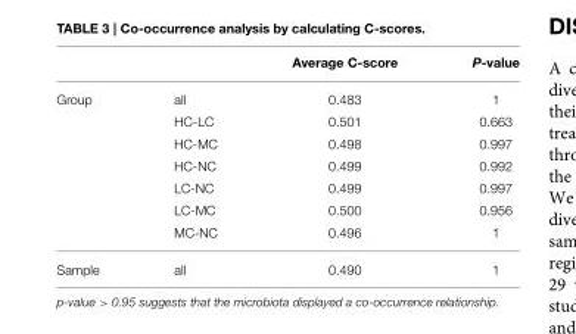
<table><thead><tr><td></td><td></td><td>Average C-score</td><td>P-value</td></tr></thead><tbody><tr><td rowspan="7">Group</td><td>all</td><td>0.483</td><td>1</td></tr><tr><td>HC-LC</td><td>0.501</td><td>0.663</td></tr><tr><td>HC-MC</td><td>0.498</td><td>0.997</td></tr><tr><td>HC-NC</td><td>0.499</td><td>0.992</td></tr><tr><td>LC-NC</td><td>0.499</td><td>0.997</td></tr><tr><td>LC-MC</td><td>0.500</td><td>0.956</td></tr><tr><td>MC-NC</td><td>0.496</td><td>1</td></tr><tr><td>Sample</td><td>all</td><td>0.490</td><td>1</td></tr></tbody></table>